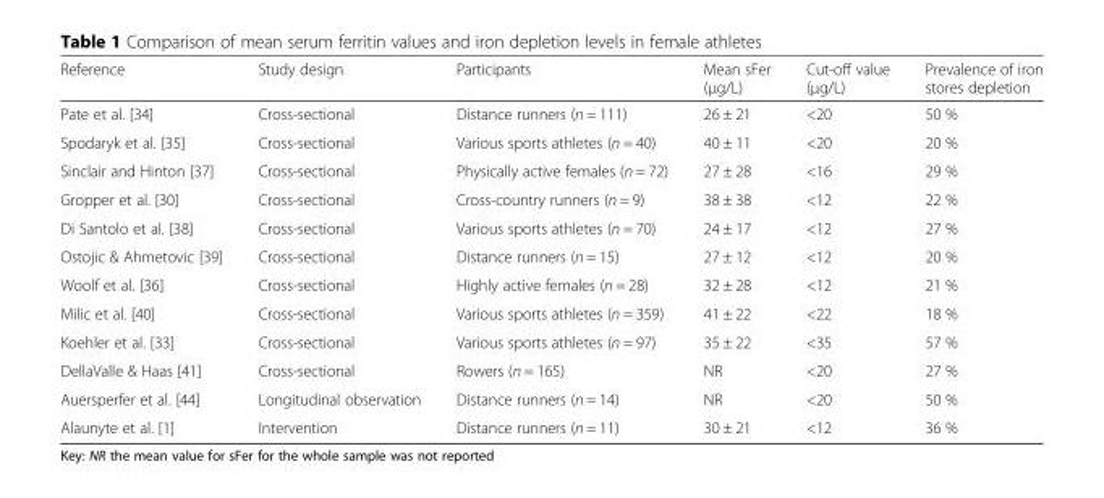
<table><thead><tr><td>Reference</td><td>Study design</td><td>Participants</td><td>Mean sFer (μg/L)</td><td>Cut-off value (μg/L)</td><td>Prevalence of iron stores depletion</td></tr></thead><tbody><tr><td>Pate et al. [34]</td><td>Cross-sectional</td><td>Distance runners (n = 111)</td><td>26 ± 21</td><td>&lt;20</td><td>50 %</td></tr><tr><td>Spodaryk et al. [35]</td><td>Cross-sectional</td><td>Various sports athletes (n = 40)</td><td>40 ± 11</td><td>&lt;20</td><td>20 %</td></tr><tr><td>Sinclair and Hinton [37]</td><td>Cross-sectional</td><td>Physically active females (n = 72)</td><td>27 ± 28</td><td>&lt;16</td><td>29 %</td></tr><tr><td>Gropper et al. [30]</td><td>Cross-sectional</td><td>Cross-country runners (n = 9)</td><td>38 ± 38</td><td>&lt;12</td><td>22 %</td></tr><tr><td>Di Santolo et al. [38]</td><td>Cross-sectional</td><td>Various sports athletes (n = 70)</td><td>24 ± 17</td><td>&lt;12</td><td>27 %</td></tr><tr><td>Ostojic &amp; Ahmetovic [39]</td><td>Cross-sectional</td><td>Distance runners (n = 15)</td><td>27 ± 12</td><td>&lt;12</td><td>20 %</td></tr><tr><td>Woolf et al. [36]</td><td>Cross-sectional</td><td>Highly active females (n = 28)</td><td>32 ± 28</td><td>&lt;12</td><td>21 %</td></tr><tr><td>Milic et al. [40]</td><td>Cross-sectional</td><td>Various sports athletes (n = 359)</td><td>41 ± 22</td><td>&lt;22</td><td>18 %</td></tr><tr><td>Koehler et al. [33]</td><td>Cross-sectional</td><td>Various sports athletes (n = 97)</td><td>35 ± 22</td><td>&lt;35</td><td>57 %</td></tr><tr><td>DellaValle &amp; Haas [41]</td><td>Cross-sectional</td><td>Rowers (n = 165)</td><td>NR</td><td>&lt;20</td><td>27 %</td></tr><tr><td>Auersperfer et al. [44]</td><td>Longitudinal observation</td><td>Distance runners (n = 14)</td><td>NR</td><td>&lt;20</td><td>50 %</td></tr><tr><td>Alaunyte et al. [1]</td><td>Intervention</td><td>Distance runners (n = 11)</td><td>30 ± 21</td><td>&lt;12</td><td>36 %</td></tr></tbody></table>